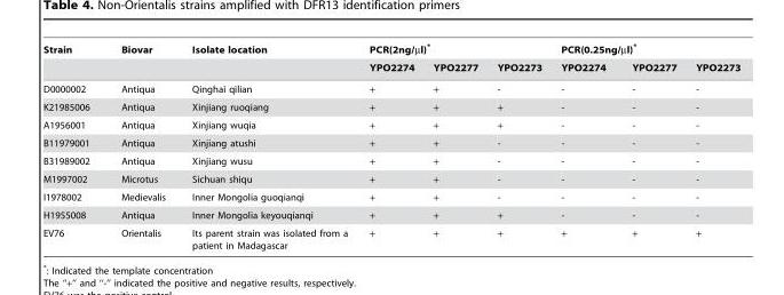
<table><thead><tr><td rowspan="2">Strain</td><td rowspan="2">Biovar</td><td rowspan="2">Isolate location</td><td colspan="3">PCR(2ng/µl)*</td><td colspan="3">PCR(0.25ng/µl)*</td></tr><tr><td>YPO2274</td><td>YPO2277</td><td>YPO2273</td><td>YPO2274</td><td>YPO2277</td><td>YPO2273</td></tr></thead><tbody><tr><td>D0000002</td><td>Antiqua</td><td>Qinghai qilian</td><td>+</td><td>+</td><td>-</td><td>-</td><td>-</td><td>-</td></tr><tr><td>K21985006</td><td>Antiqua</td><td>Xinjiang ruoqiang</td><td>+</td><td>+</td><td>+</td><td>-</td><td>-</td><td>-</td></tr><tr><td>A1956001</td><td>Antiqua</td><td>Xinjiang wuqia</td><td>+</td><td>+</td><td>+</td><td>-</td><td>-</td><td>-</td></tr><tr><td>B11979001</td><td>Antiqua</td><td>Xinjiang atushi</td><td>+</td><td>+</td><td>-</td><td>-</td><td>-</td><td>-</td></tr><tr><td>B31989002</td><td>Antiqua</td><td>Xinjiang wusu</td><td>+</td><td>+</td><td>-</td><td>-</td><td>-</td><td>-</td></tr><tr><td>M1997002</td><td>Microtus</td><td>Sichuan shiqu</td><td>+</td><td>+</td><td>-</td><td>-</td><td>-</td><td>-</td></tr><tr><td>I1978002</td><td>Medievalis</td><td>Inner Mongolia guoqianqi</td><td>+</td><td>+</td><td>-</td><td>-</td><td>-</td><td>-</td></tr><tr><td>H1955008</td><td>Antiqua</td><td>Inner Mongolia keyouqianqi</td><td>+</td><td>+</td><td>+</td><td>-</td><td>-</td><td>-</td></tr><tr><td>EV76</td><td>Orientalis</td><td>Its parent strain was isolated from a patient in Madagascar</td><td>+</td><td>+</td><td>+</td><td>+</td><td>+</td><td>+</td></tr></tbody></table>